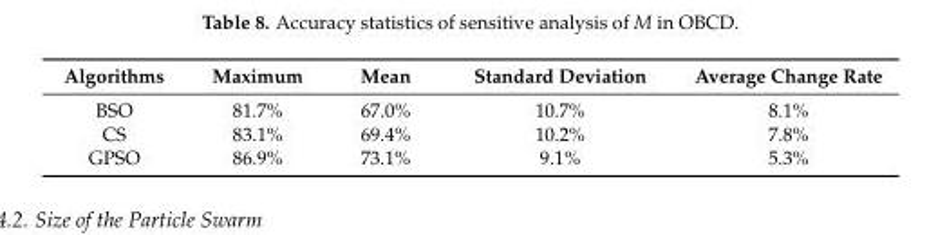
<table><thead><tr><td>Algorithms</td><td>Maximum</td><td>Mean</td><td>Standard Deviation</td><td>Average Change Rate</td></tr></thead><tbody><tr><td>BSO</td><td>81.7%</td><td>67.0%</td><td>10.7%</td><td>8.1%</td></tr><tr><td>CS</td><td>83.1%</td><td>69.4%</td><td>10.2%</td><td>7.8%</td></tr><tr><td>GPSO</td><td>86.9%</td><td>73.1%</td><td>9.1%</td><td>5.3%</td></tr></tbody></table>